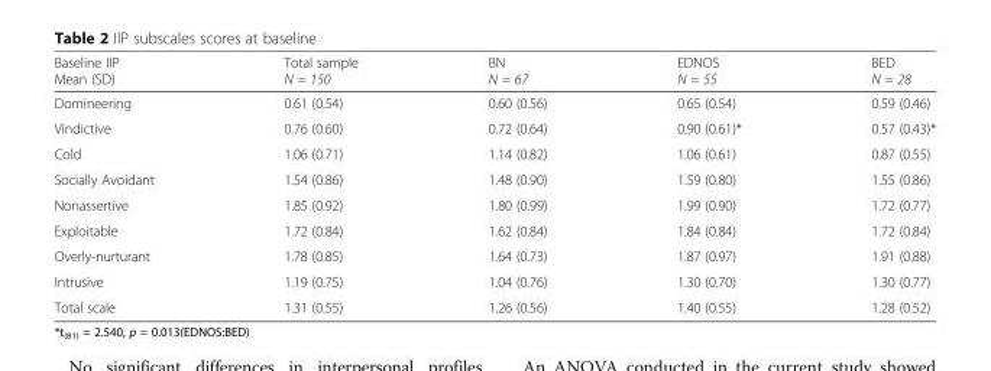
<table><thead><tr><td>Baseline IIP Mean (SD)</td><td>Total sample N = 150</td><td>BN N = 67</td><td>EDNOS N = 55</td><td>BED N = 28</td></tr></thead><tbody><tr><td>Domineering</td><td>0.61 (0.54)</td><td>0.60 (0.56)</td><td>0.65 (0.54)</td><td>0.59 (0.46)</td></tr><tr><td>Vindictive</td><td>0.76 (0.60)</td><td>0.72 (0.64)</td><td>0.90 (0.61)*</td><td>0.57 (0.43)*</td></tr><tr><td>Cold</td><td>1.06 (0.71)</td><td>1.14 (0.82)</td><td>1.06 (0.61)</td><td>0.87 (0.55)</td></tr><tr><td>Socially Avoidant</td><td>1.54 (0.86)</td><td>1.48 (0.90)</td><td>1.59 (0.80)</td><td>1.55 (0.86)</td></tr><tr><td>Nonassertive</td><td>1.85 (0.92)</td><td>1.80 (0.99)</td><td>1.99 (0.90)</td><td>1.72 (0.77)</td></tr><tr><td>Exploitable</td><td>1.72 (0.84)</td><td>1.62 (0.84)</td><td>1.84 (0.84)</td><td>1.72 (0.84)</td></tr><tr><td>Overly-nurturant</td><td>1.78 (0.85)</td><td>1.64 (0.73)</td><td>1.87 (0.97)</td><td>1.91 (0.88)</td></tr><tr><td>Intrusive</td><td>1.19 (0.75)</td><td>1.04 (0.76)</td><td>1.30 (0.70)</td><td>1.30 (0.77)</td></tr><tr><td>Total scale</td><td>1.31 (0.55)</td><td>1.26 (0.56)</td><td>1.40 (0.55)</td><td>1.28 (0.52)</td></tr></tbody></table>